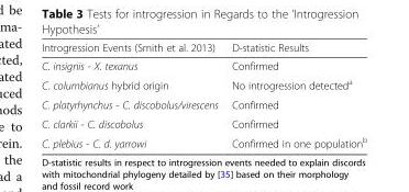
<table><thead><tr><td>Introgression Events (Smith et al. 2013)</td><td>D-statistic Results</td></tr></thead><tbody><tr><td>C. insignis - X. texanus</td><td>Confirmed</td></tr><tr><td>C. columbianus hybrid origin</td><td>No introgression detected<sup>a</sup></td></tr><tr><td>C. platyrhynchus - C. discobolus/virescens</td><td>Confirmed</td></tr><tr><td>C. clarkii - C. discobolus</td><td>Confirmed</td></tr><tr><td>C. plebius - C. d. yarrowi</td><td>Confirmed in one population<sup>b</sup></td></tr></tbody></table>